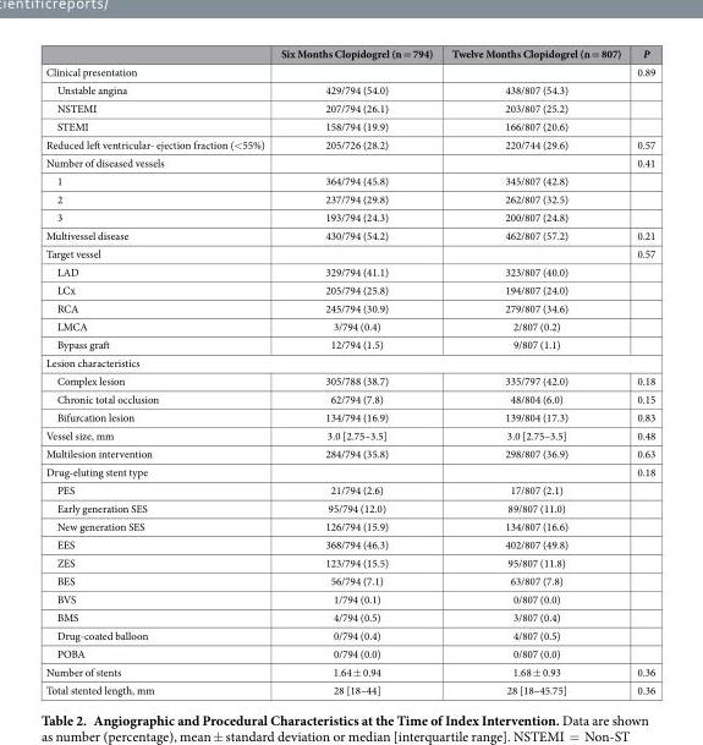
<table><thead><tr><td></td><td>Six Months Clopidogrel (n = 794)</td><td>Twelve Months Clopidogrel (n = 807)</td><td>P</td></tr></thead><tbody><tr><td>Clinical presentation</td><td></td><td></td><td>0.89</td></tr><tr><td>Unstable angina</td><td>429/794 (54.0)</td><td>438/807 (54.3)</td><td></td></tr><tr><td>NSTEMI</td><td>207/794 (26.1)</td><td>203/807 (25.2)</td><td></td></tr><tr><td>STEMI</td><td>158/794 (19.9)</td><td>166/807 (20.6)</td><td></td></tr><tr><td>Reduced left ventricular- ejection fraction (&lt;55%)</td><td>205/726 (28.2)</td><td>220/744 (29.6)</td><td>0.57</td></tr><tr><td>Number of diseased vessels</td><td></td><td></td><td>0.41</td></tr><tr><td>1</td><td>364/794 (45.8)</td><td>345/807 (42.8)</td><td></td></tr><tr><td>2</td><td>237/794 (29.8)</td><td>262/807 (32.5)</td><td></td></tr><tr><td>3</td><td>193/794 (24.3)</td><td>200/807 (24.8)</td><td></td></tr><tr><td>Multivessel disease</td><td>430/794 (54.2)</td><td>462/807 (57.2)</td><td>0.21</td></tr><tr><td>Target vessel</td><td></td><td></td><td>0.57</td></tr><tr><td>LAD</td><td>329/794 (41.1)</td><td>323/807 (40.0)</td><td></td></tr><tr><td>LCx</td><td>205/794 (25.8)</td><td>194/807 (24.0)</td><td></td></tr><tr><td>RCA</td><td>245/794 (30.9)</td><td>279/807 (34.6)</td><td></td></tr><tr><td>LMCA</td><td>3/794 (0.4)</td><td>2/807 (0.2)</td><td></td></tr><tr><td>Bypass graft</td><td>12/794 (1.5)</td><td>9/807 (1.1)</td><td></td></tr><tr><td colspan="4">Lesion characteristics</td></tr><tr><td>Complex lesion</td><td>305/788 (38.7)</td><td>335/797 (42.0)</td><td>0.18</td></tr><tr><td>Chronic total occlusion</td><td>62/794 (7.8)</td><td>48/804 (6.0)</td><td>0.15</td></tr><tr><td>Bifurcation lesion</td><td>134/794 (16.9)</td><td>139/804 (17.3)</td><td>0.83</td></tr><tr><td>Vessel size, mm</td><td>3.0 [2.75–3.5]</td><td>3.0 [2.75–3.5]</td><td>0.48</td></tr><tr><td>Multilesion intervention</td><td>284/794 (35.8)</td><td>298/807 (36.9)</td><td>0.63</td></tr><tr><td>Drug-eluting stent type</td><td></td><td></td><td>0.18</td></tr><tr><td>PES</td><td>21/794 (2.6)</td><td>17/807 (2.1)</td><td></td></tr><tr><td>Early generation SES</td><td>95/794 (12.0)</td><td>89/807 (11.0)</td><td></td></tr><tr><td>New generation SES</td><td>126/794 (15.9)</td><td>134/807 (16.6)</td><td></td></tr><tr><td>EES</td><td>368/794 (46.3)</td><td>402/807 (49.8)</td><td></td></tr><tr><td>ZES</td><td>123/794 (15.5)</td><td>95/807 (11.8)</td><td></td></tr><tr><td>BES</td><td>56/794 (7.1)</td><td>63/807 (7.8)</td><td></td></tr><tr><td>BVS</td><td>1/794 (0.1)</td><td>0/807 (0.0)</td><td></td></tr><tr><td>BMS</td><td>4/794 (0.5)</td><td>3/807 (0.4)</td><td></td></tr><tr><td>Drug-coated balloon</td><td>0/794 (0.4)</td><td>4/807 (0.5)</td><td></td></tr><tr><td>POBA</td><td>0/794 (0.0)</td><td>0/807 (0.0)</td><td></td></tr><tr><td>Number of stents</td><td>1.64 ± 0.94</td><td>1.68 ± 0.93</td><td>0.36</td></tr><tr><td>Total stented length, mm</td><td>28 [18–44]</td><td>28 [18–45.75]</td><td>0.36</td></tr></tbody></table>